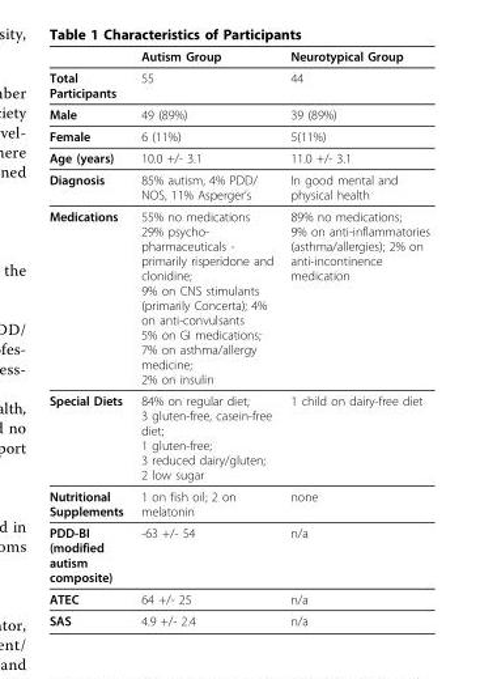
<table><thead><tr><td></td><td>Autism Group</td><td>Neurotypical Group</td></tr></thead><tbody><tr><td>Total Participants</td><td>55</td><td>44</td></tr><tr><td>Male</td><td>49 (89%)</td><td>39 (89%)</td></tr><tr><td>Female</td><td>6 (11%)</td><td>5(11%)</td></tr><tr><td>Age (years)</td><td>10.0 +/- 3.1</td><td>11.0 +/- 3.1</td></tr><tr><td>Diagnosis</td><td>85% autism, 4% PDD/ NOS, 11% Asperger’s</td><td>In good mental and physical health</td></tr><tr><td>Medications</td><td>55% no medications 29% psycho- pharmaceuticals - primarily risperidone and clonidine; 9% on CNS stimulants (primarily Concerta); 4% on anti-convulsants 5% on GI medications; 7% on asthma/allergy medicine; 2% on insulin</td><td>89% no medications; 9% on anti-inflammatories (asthma/allergies); 2% on anti-incontinence medication</td></tr><tr><td>Special Diets</td><td>84% on regular diet; 3 gluten-free, casein-free diet; 1 gluten-free; 3 reduced dairy/gluten; 2 low sugar</td><td>1 child on dairy-free diet</td></tr><tr><td>Nutritional Supplements</td><td>1 on fish oil; 2 on melatonin</td><td>none</td></tr><tr><td>PDD-BI (modified autism composite)</td><td>-63 +/- 54</td><td>n/a</td></tr><tr><td>ATEC</td><td>64 +/- 25</td><td>n/a</td></tr><tr><td>SAS</td><td>4.9 +/- 2.4</td><td>n/a</td></tr></tbody></table>